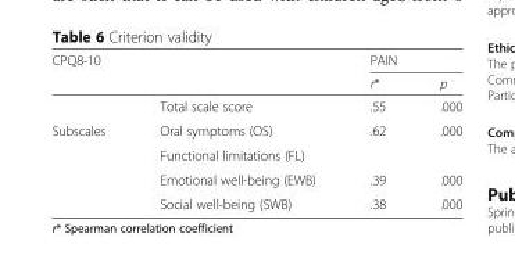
<table><thead><tr><td rowspan="2">CPQ8-10</td><td rowspan="2"></td><td colspan="2">PAIN</td></tr><tr><td>r*</td><td>p</td></tr></thead><tbody><tr><td></td><td>Total scale score</td><td>.55</td><td>.000</td></tr><tr><td rowspan="4">Subscales</td><td>Oral symptoms (OS)</td><td>.62</td><td>.000</td></tr><tr><td>Functional limitations (FL)</td><td></td><td></td></tr><tr><td>Emotional well-being (EWB)</td><td>.39</td><td>.000</td></tr><tr><td>Social well-being (SWB)</td><td>.38</td><td>.000</td></tr></tbody></table>